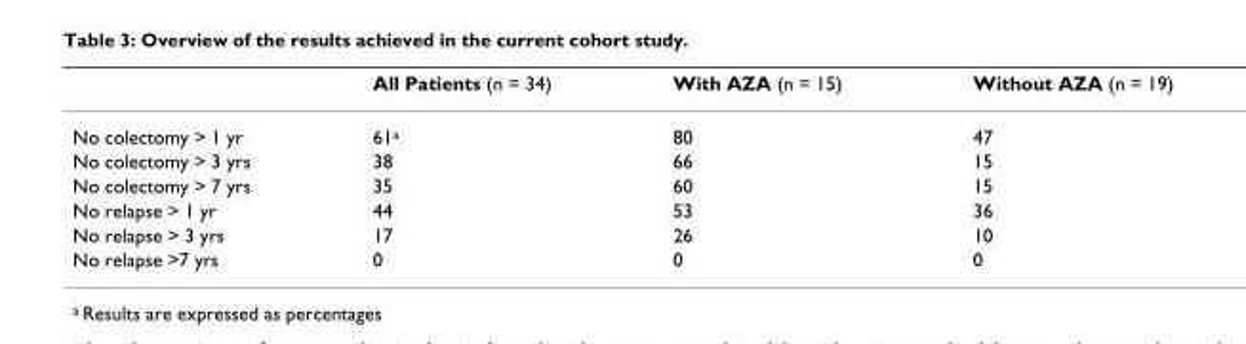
<table><thead><tr><td></td><td>All Patients (n = 34)</td><td>With AZA (n = 15)</td><td>Without AZA (n = 19)</td></tr></thead><tbody><tr><td>No colectomy &gt; 1 yr</td><td>61a</td><td>80</td><td>47</td></tr><tr><td>No colectomy &gt; 3 yrs</td><td>38</td><td>66</td><td>15</td></tr><tr><td>No colectomy &gt; 7 yrs</td><td>35</td><td>60</td><td>15</td></tr><tr><td>No relapse &gt; 1 yr</td><td>44</td><td>53</td><td>36</td></tr><tr><td>No relapse &gt; 3 yrs</td><td>17</td><td>26</td><td>10</td></tr><tr><td>No relapse &gt;7 yrs</td><td>0</td><td>0</td><td>0</td></tr></tbody></table>